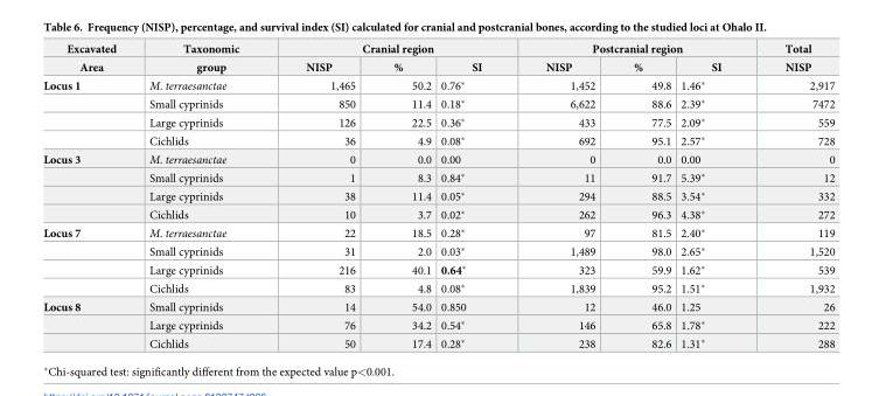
<table><thead><tr><td rowspan="2">Excavated Area</td><td rowspan="2">Taxonomic group</td><td colspan="3">Cranial region</td><td colspan="3">Postcranial region</td><td rowspan="2">Total NISP</td></tr><tr><td>NISP</td><td>%</td><td>SI</td><td>NISP</td><td>%</td><td>SI</td></tr></thead><tbody><tr><td rowspan="4">Locus 1</td><td>M. terraesanctae</td><td>1,465</td><td>50.2</td><td>0.76*</td><td>1,452</td><td>49.8</td><td>1.46*</td><td>2,917</td></tr><tr><td>Small cyprinids</td><td>850</td><td>11.4</td><td>0.18*</td><td>6,622</td><td>88.6</td><td>2.39*</td><td>7472</td></tr><tr><td>Large cyprinids</td><td>126</td><td>22.5</td><td>0.36*</td><td>433</td><td>77.5</td><td>2.09*</td><td>559</td></tr><tr><td>Cichlids</td><td>36</td><td>4.9</td><td>0.08*</td><td>692</td><td>95.1</td><td>2.57*</td><td>728</td></tr><tr><td rowspan="4">Locus 3</td><td>M. terraesanctae</td><td>0</td><td>0.0</td><td>0.00</td><td>0</td><td>0.0</td><td>0.00</td><td>0</td></tr><tr><td>Small cyprinids</td><td>1</td><td>8.3</td><td>0.84*</td><td>11</td><td>91.7</td><td>5.39*</td><td>12</td></tr><tr><td>Large cyprinids</td><td>38</td><td>11.4</td><td>0.05*</td><td>294</td><td>88.5</td><td>3.54*</td><td>332</td></tr><tr><td>Cichlids</td><td>10</td><td>3.7</td><td>0.02*</td><td>262</td><td>96.3</td><td>4.38*</td><td>272</td></tr><tr><td rowspan="4">Locus 7</td><td>M. terraesanctae</td><td>22</td><td>18.5</td><td>0.28*</td><td>97</td><td>81.5</td><td>2.40*</td><td>119</td></tr><tr><td>Small cyprinids</td><td>31</td><td>2.0</td><td>0.03*</td><td>1,489</td><td>98.0</td><td>2.65*</td><td>1,520</td></tr><tr><td>Large cyprinids</td><td>216</td><td>40.1</td><td>0.64*</td><td>323</td><td>59.9</td><td>1.62*</td><td>539</td></tr><tr><td>Cichlids</td><td>83</td><td>4.8</td><td>0.08*</td><td>1,839</td><td>95.2</td><td>1.51*</td><td>1,932</td></tr><tr><td rowspan="3">Locus 8</td><td>Small cyprinids</td><td>14</td><td>54.0</td><td>0.850</td><td>12</td><td>46.0</td><td>1.25</td><td>26</td></tr><tr><td>Large cyprinids</td><td>76</td><td>34.2</td><td>0.54*</td><td>146</td><td>65.8</td><td>1.78*</td><td>222</td></tr><tr><td>Cichlids</td><td>50</td><td>17.4</td><td>0.28*</td><td>238</td><td>82.6</td><td>1.31*</td><td>288</td></tr></tbody></table>